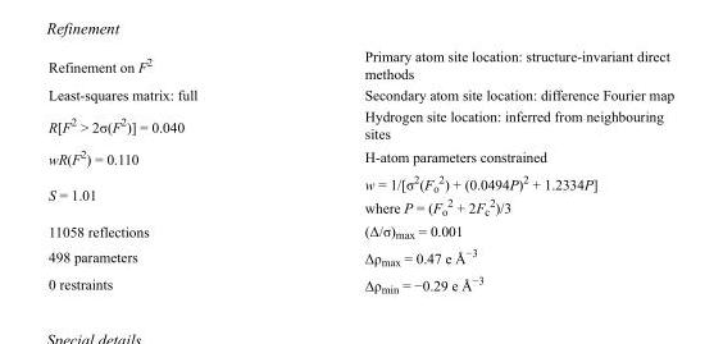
<table><tbody><tr><td>Refinement on F<sup>2</sup></td><td>Primary atom site location: structure-invariant direct methods</td></tr><tr><td>Least-squares matrix: full</td><td>Secondary atom site location: difference Fourier map</td></tr><tr><td>R[F<sup>2</sup> &gt; 2σ(F<sup>2</sup>)] = 0.040</td><td>Hydrogen site location: inferred from neighbouring sites</td></tr><tr><td>wR(F<sup>2</sup>) = 0.110</td><td>H-atom parameters constrained</td></tr><tr><td>S = 1.01</td><td>w = 1/[σ<sup>2</sup>(F<sub>o</sub> <sup>2</sup>) + (0.0494P)<sup>2</sup> + 1.2334P] where P = (F<sub>o</sub> <sup>2</sup> + 2F<sub>c</sub> <sup>2</sup>)/3</td></tr><tr><td>11058 reflections</td><td>(Δ/σ)<sub>max</sub> = 0.001</td></tr><tr><td>498 parameters</td><td>Δρ<sub>max</sub> = 0.47 e Å<sup>−3</sup></td></tr><tr><td>0 restraints</td><td>Δρ<sub>min</sub> = −0.29 e Å<sup>−3</sup></td></tr></tbody></table>